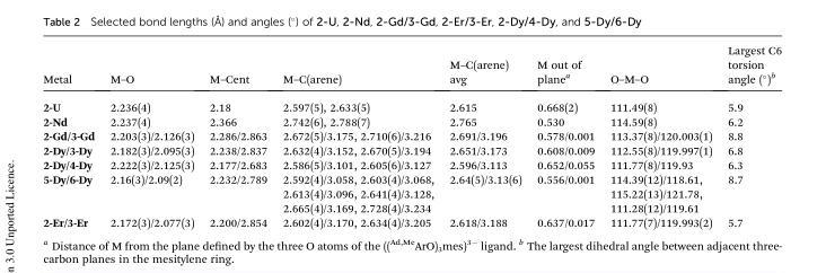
<table><thead><tr><td>Metal</td><td>M–O</td><td>M–Cent</td><td>M–C(arene)</td><td>M–C(arene) avg</td><td>M out of plane<sup>a</sup></td><td>O–M–O</td><td>Largest C6 torsion angle (°)<sup>b</sup></td></tr></thead><tbody><tr><td>2-U</td><td>2.236(4)</td><td>2.18</td><td>2.597(5), 2.633(5)</td><td>2.615</td><td>0.668(2)</td><td>111.49(8)</td><td>5.9</td></tr><tr><td>2-Nd</td><td>2.237(4)</td><td>2.366</td><td>2.742(6), 2.788(7)</td><td>2.765</td><td>0.530</td><td>114.59(8)</td><td>6.2</td></tr><tr><td>2-Gd/3-Gd</td><td>2.203(3)/2.126(3)</td><td>2.286/2.863</td><td>2.672(5)/3.175, 2.710(6)/3.216</td><td>2.691/3.196</td><td>0.578/0.001</td><td>113.37(8)/120.003(1)</td><td>8.8</td></tr><tr><td>2-Dy/3-Dy</td><td>2.182(3)/2.095(3)</td><td>2.238/2.837</td><td>2.632(4)/3.152, 2.670(5)/3.194</td><td>2.651/3.173</td><td>0.608/0.009</td><td>112.55(8)/119.997(1)</td><td>6.8</td></tr><tr><td>2-Dy/4-Dy</td><td>2.222(3)/2.125(3)</td><td>2.177/2.683</td><td>2.586(5)/3.101, 2.605(6)/3.127</td><td>2.596/3.113</td><td>0.652/0.055</td><td>111.77(8)/119.93</td><td>6.3</td></tr><tr><td>5-Dy/6-Dy</td><td>2.16(3)/2.09(2)</td><td>2.232/2.789</td><td>2.592(4)/3.058, 2.603(4)/3.068, 2.613(4)/3.096, 2.641(4)/3.128, 2.665(4)/3.169, 2.728(4)/3.234</td><td>2.64(5)/3.13(6)</td><td>0.556/0.001</td><td>114.39(12)/118.61, 115.22(13)/121.78, 111.28(12)/119.61</td><td>8.7</td></tr><tr><td>2-Er/3-Er</td><td>2.172(3)/2.077(3)</td><td>2.200/2.854</td><td>2.602(4)/3.170, 2.634(4)/3.205</td><td>2.618/3.188</td><td>0.637/0.017</td><td>111.77(7)/119.993(2)</td><td>5.7</td></tr></tbody></table>